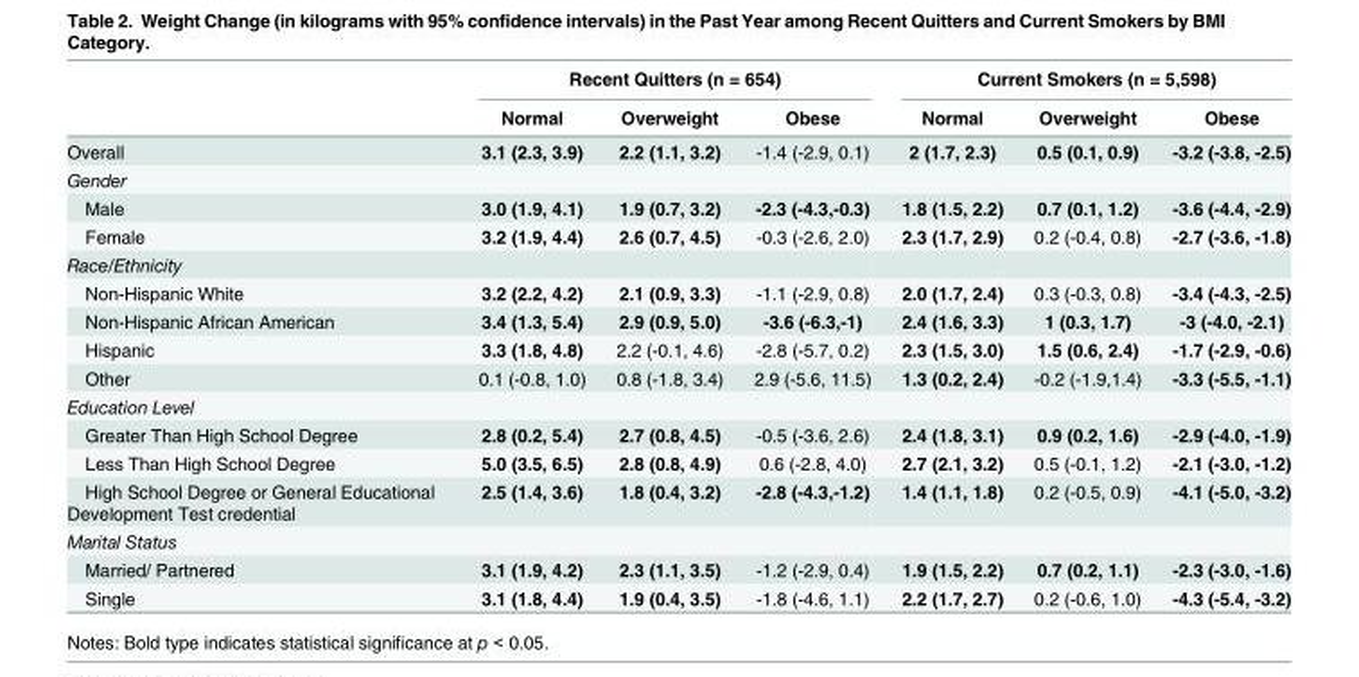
<table><thead><tr><td rowspan="2"></td><td colspan="3">Recent Quitters (n = 654)</td><td colspan="3">Current Smokers (n = 5,598)</td></tr><tr><td>Normal</td><td>Overweight</td><td>Obese</td><td>Normal</td><td>Overweight</td><td>Obese</td></tr></thead><tbody><tr><td>Overall</td><td>3.1 (2.3, 3.9)</td><td>2.2 (1.1, 3.2)</td><td>-1.4 (-2.9, 0.1)</td><td>2 (1.7, 2.3)</td><td>0.5 (0.1, 0.9)</td><td>-3.2 (-3.8, -2.5)</td></tr><tr><td colspan="7">Gender</td></tr><tr><td>Male</td><td>3.0 (1.9, 4.1)</td><td>1.9 (0.7, 3.2)</td><td>-2.3 (-4.3,-0.3)</td><td>1.8 (1.5, 2.2)</td><td>0.7 (0.1, 1.2)</td><td>-3.6 (-4.4, -2.9)</td></tr><tr><td>Female</td><td>3.2 (1.9, 4.4)</td><td>2.6 (0.7, 4.5)</td><td>-0.3 (-2.6, 2.0)</td><td>2.3 (1.7, 2.9)</td><td>0.2 (-0.4, 0.8)</td><td>-2.7 (-3.6, -1.8)</td></tr><tr><td colspan="7">Race/Ethnicity</td></tr><tr><td>Non-Hispanic White</td><td>3.2 (2.2, 4.2)</td><td>2.1 (0.9, 3.3)</td><td>-1.1 (-2.9, 0.8)</td><td>2.0 (1.7, 2.4)</td><td>0.3 (-0.3, 0.8)</td><td>-3.4 (-4.3, -2.5)</td></tr><tr><td>Non-Hispanic African American</td><td>3.4 (1.3, 5.4)</td><td>2.9 (0.9, 5.0)</td><td>-3.6 (-6.3,-1)</td><td>2.4 (1.6, 3.3)</td><td>1 (0.3, 1.7)</td><td>-3 (-4.0, -2.1)</td></tr><tr><td>Hispanic</td><td>3.3 (1.8, 4.8)</td><td>2.2 (-0.1, 4.6)</td><td>-2.8 (-5.7, 0.2)</td><td>2.3 (1.5, 3.0)</td><td>1.5 (0.6, 2.4)</td><td>-1.7 (-2.9, -0.6)</td></tr><tr><td>Other</td><td>0.1 (-0.8, 1.0)</td><td>0.8 (-1.8, 3.4)</td><td>2.9 (-5.6, 11.5)</td><td>1.3 (0.2, 2.4)</td><td>-0.2 (-1.9,1.4)</td><td>-3.3 (-5.5, -1.1)</td></tr><tr><td colspan="7">Education Level</td></tr><tr><td>Greater Than High School Degree</td><td>2.8 (0.2, 5.4)</td><td>2.7 (0.8, 4.5)</td><td>-0.5 (-3.6, 2.6)</td><td>2.4 (1.8, 3.1)</td><td>0.9 (0.2, 1.6)</td><td>-2.9 (-4.0, -1.9)</td></tr><tr><td>Less Than High School Degree</td><td>5.0 (3.5, 6.5)</td><td>2.8 (0.8, 4.9)</td><td>0.6 (-2.8, 4.0)</td><td>2.7 (2.1, 3.2)</td><td>0.5 (-0.1, 1.2)</td><td>-2.1 (-3.0, -1.2)</td></tr><tr><td>High School Degree or General Educational Development Test credential</td><td>2.5 (1.4, 3.6)</td><td>1.8 (0.4, 3.2)</td><td>-2.8 (-4.3,-1.2)</td><td>1.4 (1.1, 1.8)</td><td>0.2 (-0.5, 0.9)</td><td>-4.1 (-5.0, -3.2)</td></tr><tr><td colspan="7">Marital Status</td></tr><tr><td>Married/ Partnered</td><td>3.1 (1.9, 4.2)</td><td>2.3 (1.1, 3.5)</td><td>-1.2 (-2.9, 0.4)</td><td>1.9 (1.5, 2.2)</td><td>0.7 (0.2, 1.1)</td><td>-2.3 (-3.0, -1.6)</td></tr><tr><td>Single</td><td>3.1 (1.8, 4.4)</td><td>1.9 (0.4, 3.5)</td><td>-1.8 (-4.6, 1.1)</td><td>2.2 (1.7, 2.7)</td><td>0.2 (-0.6, 1.0)</td><td>-4.3 (-5.4, -3.2)</td></tr></tbody></table>